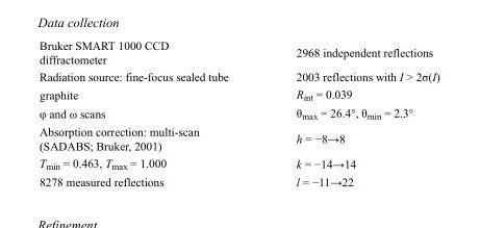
<table><tbody><tr><td>Bruker SMART 1000 CCD diffractometer</td><td>2968 independent reflections</td></tr><tr><td>Radiation source: fine-focus sealed tube</td><td>2003 reflections with I &gt; 2σ(I)</td></tr><tr><td>graphite</td><td>R<sub>int</sub> = 0.039</td></tr><tr><td>φ and ω scans</td><td>θ<sub>max</sub> = 26.4°, θ<sub>min</sub> = 2.3°</td></tr><tr><td>Absorption correction: multi-scan (SADABS; Bruker, 2001)</td><td>h = −8→8</td></tr><tr><td>T<sub>min</sub> = 0.463, T<sub>max</sub> = 1.000</td><td>k = −14→14</td></tr><tr><td>8278 measured reflections</td><td>l = −11→22</td></tr></tbody></table>